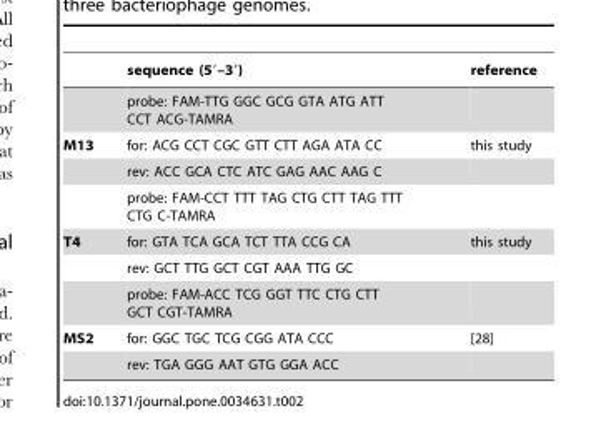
<table><thead><tr><td></td><td>sequence (5′–3′)</td><td>reference</td></tr></thead><tbody><tr><td></td><td>probe: FAM-TTG GGC GCG GTA ATG ATT CCT ACG-TAMRA</td><td></td></tr><tr><td rowspan="3">M13</td><td>for: ACG CCT CGC GTT CTT AGA ATA CC</td><td>this study</td></tr><tr><td>rev: ACC GCA CTC ATC GAG AAC AAG C</td><td></td></tr><tr><td>probe: FAM-CCT TTT TAG CTG CTT TAG TTT CTG C-TAMRA</td><td></td></tr><tr><td rowspan="3">T4</td><td>for: GTA TCA GCA TCT TTA CCG CA</td><td>this study</td></tr><tr><td>rev: GCT TTG GCT CGT AAA TTG GC</td><td></td></tr><tr><td>probe: FAM-ACC TCG GGT TTC CTG CTT GCT CGT-TAMRA</td><td></td></tr><tr><td rowspan="2">MS2</td><td>for: GGC TGC TCG CGG ATA CCC</td><td>[28]</td></tr><tr><td>rev: TGA GGG AAT GTG GGA ACC</td><td></td></tr></tbody></table>